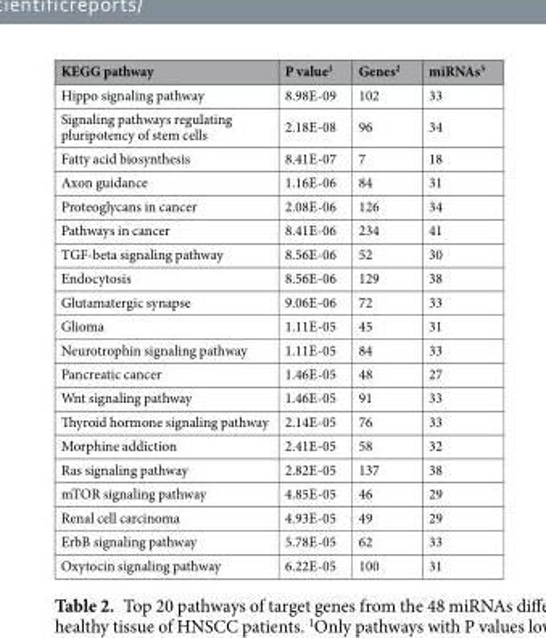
<table><thead><tr><td>KEGG pathway</td><td>P value<sup>1</sup></td><td>Genes<sup>2</sup></td><td>miRNAs<sup>3</sup></td></tr></thead><tbody><tr><td>Hippo signaling pathway</td><td>8.98E-09</td><td>102</td><td>33</td></tr><tr><td>Signaling pathways regulating pluripotency of stem cells</td><td>2.18E-08</td><td>96</td><td>34</td></tr><tr><td>Fatty acid biosynthesis</td><td>8.41E-07</td><td>7</td><td>18</td></tr><tr><td>Axon guidance</td><td>1.16E-06</td><td>84</td><td>31</td></tr><tr><td>Proteoglycans in cancer</td><td>2.08E-06</td><td>126</td><td>34</td></tr><tr><td>Pathways in cancer</td><td>8.41E-06</td><td>234</td><td>41</td></tr><tr><td>TGF-beta signaling pathway</td><td>8.56E-06</td><td>52</td><td>30</td></tr><tr><td>Endocytosis</td><td>8.56E-06</td><td>129</td><td>38</td></tr><tr><td>Glutamatergic synapse</td><td>9.06E-06</td><td>72</td><td>33</td></tr><tr><td>Glioma</td><td>1.11E-05</td><td>45</td><td>31</td></tr><tr><td>Neurotrophin signaling pathway</td><td>1.11E-05</td><td>84</td><td>33</td></tr><tr><td>Pancreatic cancer</td><td>1.46E-05</td><td>48</td><td>27</td></tr><tr><td>Wnt signaling pathway</td><td>1.46E-05</td><td>91</td><td>33</td></tr><tr><td>Thyroid hormone signaling pathway</td><td>2.14E-05</td><td>76</td><td>33</td></tr><tr><td>Morphine addiction</td><td>2.41E-05</td><td>58</td><td>32</td></tr><tr><td>Ras signaling pathway</td><td>2.82E-05</td><td>137</td><td>38</td></tr><tr><td>mTOR signaling pathway</td><td>4.85E-05</td><td>46</td><td>29</td></tr><tr><td>Renal cell carcinoma</td><td>4.93E-05</td><td>49</td><td>29</td></tr><tr><td>ErbB signaling pathway</td><td>5.78E-05</td><td>62</td><td>33</td></tr><tr><td>Oxytocin signaling pathway</td><td>6.22E-05</td><td>100</td><td>31</td></tr></tbody></table>